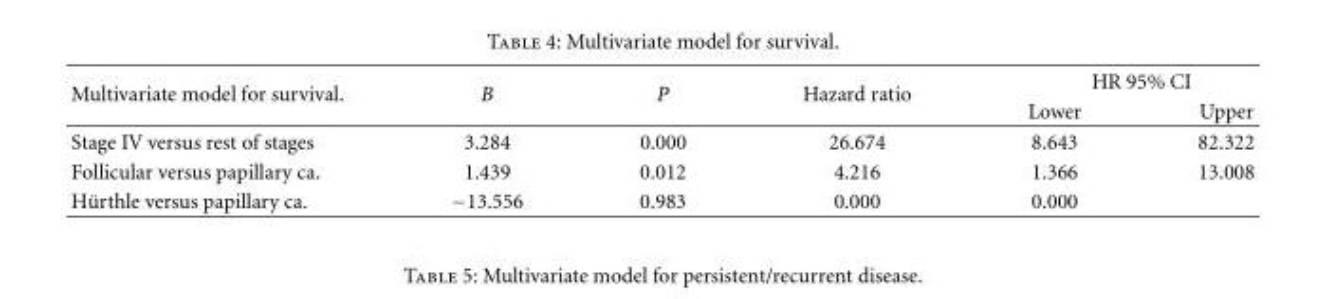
<table><thead><tr><td rowspan="2">Multivariate model for survival.</td><td rowspan="2">B</td><td rowspan="2">P</td><td rowspan="2">Hazard ratio</td><td colspan="2">HR 95% CI</td></tr><tr><td>Lower</td><td>Upper</td></tr></thead><tbody><tr><td>Stage IV versus rest of stages</td><td>3.284</td><td>0.000</td><td>26.674</td><td>8.643</td><td>82.322</td></tr><tr><td>Follicular versus papillary ca.</td><td>1.439</td><td>0.012</td><td>4.216</td><td>1.366</td><td>13.008</td></tr><tr><td>H¨urthle versus papillary ca.</td><td>−13.556</td><td>0.983</td><td>0.000</td><td>0.000</td><td></td></tr></tbody></table>